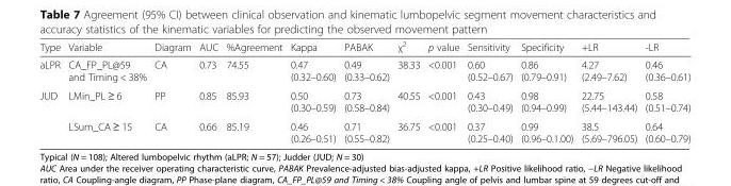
<table><thead><tr><td>Type</td><td>Variable</td><td>Diagram</td><td>AUC</td><td>%Agreement</td><td>Kappa</td><td>PABAK</td><td>χ<sup>2</sup></td><td>p value</td><td>Sensitivity</td><td>Specificity</td><td>+LR</td><td>-LR</td></tr></thead><tbody><tr><td>aLPR</td><td>CA_FP_PL@59 and Timing &lt; 38%</td><td>CA</td><td>0.73</td><td>74.55</td><td>0.47 (0.32–0.60)</td><td>0.49 (0.33–0.62)</td><td>38.33</td><td>&lt;0.001</td><td>0.60 (0.52–0.67)</td><td>0.86 (0.79–0.91)</td><td>4.27 (2.49–7.62)</td><td>0.46 (0.36–0.61)</td></tr><tr><td rowspan="2">JUD</td><td>LMin_PL ≥ 6</td><td>PP</td><td>0.85</td><td>85.93</td><td>0.50 (0.30–0.59)</td><td>0.73 (0.58–0.84)</td><td>40.55</td><td>&lt;0.001</td><td>0.43 (0.30–0.49)</td><td>0.98 (0.94–0.99)</td><td>22.75 (5.44–143.44)</td><td>0.58 (0.51–0.74)</td></tr><tr><td>LSum_CA ≥ 15</td><td>CA</td><td>0.66</td><td>85.19</td><td>0.46 (0.26–0.51)</td><td>0.71 (0.55–0.82)</td><td>36.75</td><td>&lt;0.001</td><td>0.37 (0.25–0.40)</td><td>0.99 (0.96–0.1.00)</td><td>38.5 (5.69–796.05)</td><td>0.64 (0.60–0.79)</td></tr></tbody></table>